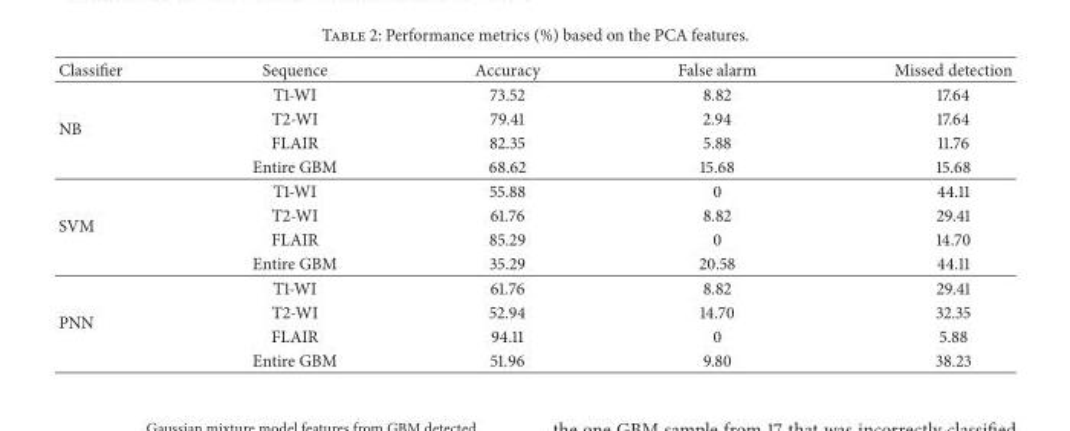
<table><thead><tr><td>Classifier</td><td>Sequence</td><td>Accuracy</td><td>False alarm</td><td>Missed detection</td></tr></thead><tbody><tr><td rowspan="4">NB</td><td>T1-WI</td><td>73.52</td><td>8.82</td><td>17.64</td></tr><tr><td>T2-WI</td><td>79.41</td><td>2.94</td><td>17.64</td></tr><tr><td>FLAIR</td><td>82.35</td><td>5.88</td><td>11.76</td></tr><tr><td>Entire GBM</td><td>68.62</td><td>15.68</td><td>15.68</td></tr><tr><td rowspan="4">SVM</td><td>T1-WI</td><td>55.88</td><td>0</td><td>44.11</td></tr><tr><td>T2-WI</td><td>61.76</td><td>8.82</td><td>29.41</td></tr><tr><td>FLAIR</td><td>85.29</td><td>0</td><td>14.70</td></tr><tr><td>Entire GBM</td><td>35.29</td><td>20.58</td><td>44.11</td></tr><tr><td rowspan="4">PNN</td><td>T1-WI</td><td>61.76</td><td>8.82</td><td>29.41</td></tr><tr><td>T2-WI</td><td>52.94</td><td>14.70</td><td>32.35</td></tr><tr><td>FLAIR</td><td>94.11</td><td>0</td><td>5.88</td></tr><tr><td>Entire GBM</td><td>51.96</td><td>9.80</td><td>38.23</td></tr></tbody></table>